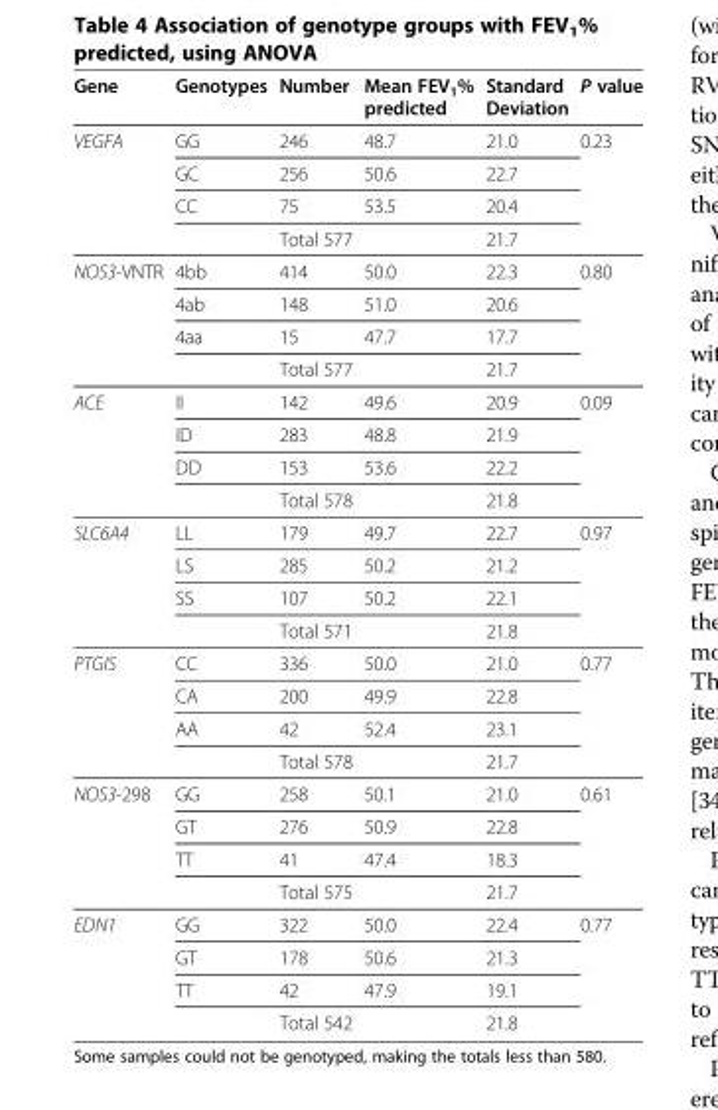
<table><thead><tr><td>Gene</td><td>Genotypes</td><td>Number</td><td>Mean FEV<sub>1</sub>% predicted</td><td>Standard Deviation</td><td>P value</td></tr></thead><tbody><tr><td rowspan="4">VEGFA</td><td>GG</td><td>246</td><td>48.7</td><td>21.0</td><td>0.23</td></tr><tr><td>GC</td><td>256</td><td>50.6</td><td>22.7</td><td></td></tr><tr><td>CC</td><td>75</td><td>53.5</td><td>20.4</td><td></td></tr><tr><td></td><td>Total 577</td><td></td><td>21.7</td><td></td></tr><tr><td rowspan="4">NOS3-VNTR</td><td>4bb</td><td>414</td><td>50.0</td><td>22.3</td><td>0.80</td></tr><tr><td>4ab</td><td>148</td><td>51.0</td><td>20.6</td><td></td></tr><tr><td>4aa</td><td>15</td><td>47.7</td><td>17.7</td><td></td></tr><tr><td></td><td>Total 577</td><td></td><td>21.7</td><td></td></tr><tr><td rowspan="4">ACE</td><td>II</td><td>142</td><td>49.6</td><td>20.9</td><td>0.09</td></tr><tr><td>ID</td><td>283</td><td>48.8</td><td>21.9</td><td></td></tr><tr><td>DD</td><td>153</td><td>53.6</td><td>22.2</td><td></td></tr><tr><td></td><td>Total 578</td><td></td><td>21.8</td><td></td></tr><tr><td rowspan="4">SLC6A4</td><td>LL</td><td>179</td><td>49.7</td><td>22.7</td><td>0.97</td></tr><tr><td>LS</td><td>285</td><td>50.2</td><td>21.2</td><td></td></tr><tr><td>SS</td><td>107</td><td>50.2</td><td>22.1</td><td></td></tr><tr><td></td><td>Total 571</td><td></td><td>21.8</td><td></td></tr><tr><td rowspan="4">PTGIS</td><td>CC</td><td>336</td><td>50.0</td><td>21.0</td><td>0.77</td></tr><tr><td>CA</td><td>200</td><td>49.9</td><td>22.8</td><td></td></tr><tr><td>AA</td><td>42</td><td>52.4</td><td>23.1</td><td></td></tr><tr><td></td><td>Total 578</td><td></td><td>21.7</td><td></td></tr><tr><td rowspan="4">NOS3-298</td><td>GG</td><td>258</td><td>50.1</td><td>21.0</td><td>0.61</td></tr><tr><td>GT</td><td>276</td><td>50.9</td><td>22.8</td><td></td></tr><tr><td>TT</td><td>41</td><td>47.4</td><td>18.3</td><td></td></tr><tr><td></td><td>Total 575</td><td></td><td>21.7</td><td></td></tr><tr><td rowspan="4">EDN1</td><td>GG</td><td>322</td><td>50.0</td><td>22.4</td><td>0.77</td></tr><tr><td>GT</td><td>178</td><td>50.6</td><td>21.3</td><td></td></tr><tr><td>TT</td><td>42</td><td>47.9</td><td>19.1</td><td></td></tr><tr><td></td><td>Total 542</td><td></td><td>21.8</td><td></td></tr></tbody></table>